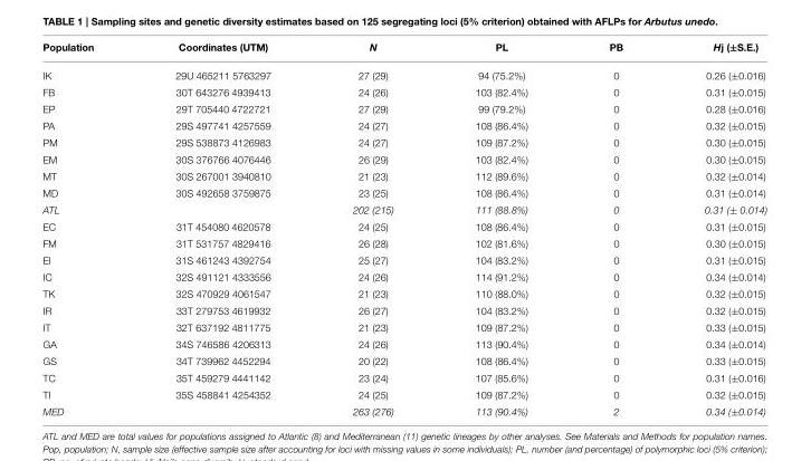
<table><thead><tr><td>Population</td><td>Coordinates (UTM)</td><td>N</td><td>PL</td><td>PB</td><td>Hj (±S.E.)</td></tr></thead><tbody><tr><td>IK</td><td>29U 465211 5763297</td><td>27 (29)</td><td>94 (75.2%)</td><td>0</td><td>0.26 (±0.016)</td></tr><tr><td>FB</td><td>30T 643276 4939413</td><td>24 (26)</td><td>103 (82.4%)</td><td>0</td><td>0.31 (±0.015)</td></tr><tr><td>EP</td><td>29T 705440 4722721</td><td>27 (29)</td><td>99 (79.2%)</td><td>0</td><td>0.28 (±0.016)</td></tr><tr><td>PA</td><td>29S 497741 4257559</td><td>24 (27)</td><td>108 (86.4%)</td><td>0</td><td>0.32 (±0.015)</td></tr><tr><td>PM</td><td>29S 538873 4126983</td><td>24 (27)</td><td>109 (87.2%)</td><td>0</td><td>0.30 (±0.015)</td></tr><tr><td>EM</td><td>30S 376766 4076446</td><td>26 (29)</td><td>103 (82.4%)</td><td>0</td><td>0.30 (±0.015)</td></tr><tr><td>MT</td><td>30S 267001 3940810</td><td>21 (23)</td><td>112 (89.6%)</td><td>0</td><td>0.32 (±0.014)</td></tr><tr><td>MD</td><td>30S 492658 3759875</td><td>23 (25)</td><td>108 (86.4%)</td><td>0</td><td>0.31 (±0.014)</td></tr><tr><td>ATL</td><td></td><td>202 (215)</td><td>111 (88.8%)</td><td>0</td><td>0.31 (± 0.014)</td></tr><tr><td>EC</td><td>31T 454080 4620578</td><td>24 (25)</td><td>108 (86.4%)</td><td>0</td><td>0.31 (±0.015)</td></tr><tr><td>FM</td><td>31T 531757 4829416</td><td>26 (28)</td><td>102 (81.6%)</td><td>0</td><td>0.30 (±0.015)</td></tr><tr><td>EI</td><td>31S 461243 4392754</td><td>25 (27)</td><td>104 (83.2%)</td><td>0</td><td>0.31 (±0.015)</td></tr><tr><td>IC</td><td>32S 491121 4333556</td><td>24 (26)</td><td>114 (91.2%)</td><td>0</td><td>0.34 (±0.014)</td></tr><tr><td>TK</td><td>32S 470929 4061547</td><td>21 (23)</td><td>110 (88.0%)</td><td>0</td><td>0.32 (±0.015)</td></tr><tr><td>IR</td><td>33T 279753 4619932</td><td>26 (27)</td><td>104 (83.2%)</td><td>0</td><td>0.32 (±0.015)</td></tr><tr><td>IT</td><td>32T 637192 4811775</td><td>21 (23)</td><td>109 (87.2%)</td><td>0</td><td>0.33 (±0.015)</td></tr><tr><td>GA</td><td>34S 746586 4206313</td><td>24 (26)</td><td>113 (90.4%)</td><td>0</td><td>0.34 (±0.014)</td></tr><tr><td>GS</td><td>34T 739962 4452294</td><td>20 (22)</td><td>108 (86.4%)</td><td>0</td><td>0.33 (±0.015)</td></tr><tr><td>TC</td><td>35T 459279 4441142</td><td>23 (24)</td><td>107 (85.6%)</td><td>0</td><td>0.31 (±0.016)</td></tr><tr><td>TI</td><td>35S 458841 4254352</td><td>24 (25)</td><td>109 (87.2%)</td><td>0</td><td>0.32 (±0.015)</td></tr><tr><td>MED</td><td></td><td>263 (276)</td><td>113 (90.4%)</td><td>2</td><td>0.34 (±0.014)</td></tr></tbody></table>